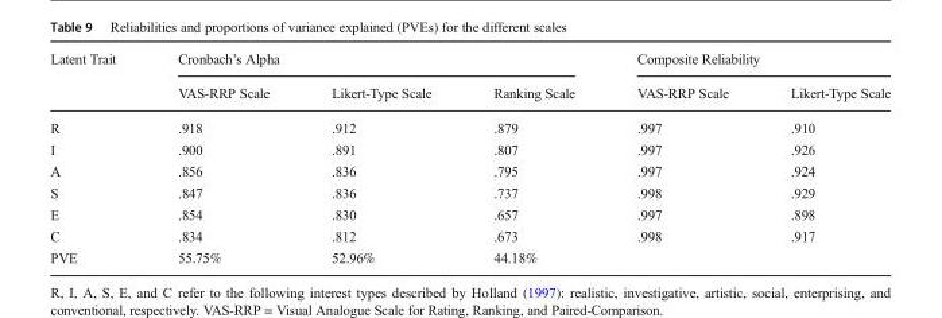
<table><thead><tr><td rowspan="2">Latent Trait</td><td colspan="3">Cronbach’s Alpha</td><td colspan="2">Composite Reliability</td></tr><tr><td>VAS-RRP Scale</td><td>Likert-Type Scale</td><td>Ranking Scale</td><td>VAS-RRP Scale</td><td>Likert-Type Scale</td></tr></thead><tbody><tr><td>R</td><td>.918</td><td>.912</td><td>.879</td><td>.997</td><td>.910</td></tr><tr><td>I</td><td>.900</td><td>.891</td><td>.807</td><td>.997</td><td>.926</td></tr><tr><td>A</td><td>.856</td><td>.836</td><td>.795</td><td>.997</td><td>.924</td></tr><tr><td>S</td><td>.847</td><td>.836</td><td>.737</td><td>.998</td><td>.929</td></tr><tr><td>E</td><td>.854</td><td>.830</td><td>.657</td><td>.997</td><td>.898</td></tr><tr><td>C</td><td>.834</td><td>.812</td><td>.673</td><td>.998</td><td>.917</td></tr><tr><td>PVE</td><td>55.75%</td><td>52.96%</td><td>44.18%</td><td></td><td></td></tr></tbody></table>